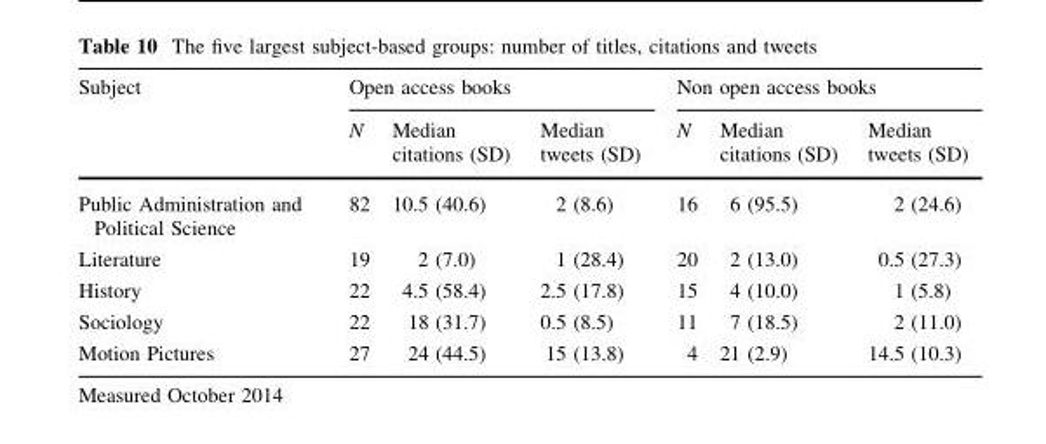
<table><thead><tr><td rowspan="2">Subject</td><td colspan="3">Open access books</td><td colspan="3">Non open access books</td></tr><tr><td>N</td><td>Median citations (SD)</td><td>Median tweets (SD)</td><td>N</td><td>Median citations (SD)</td><td>Median tweets (SD)</td></tr></thead><tbody><tr><td>Public Administration and Political Science</td><td>82</td><td>10.5 (40.6)</td><td>2 (8.6)</td><td>16</td><td>6 (95.5)</td><td>2 (24.6)</td></tr><tr><td>Literature</td><td>19</td><td>2 (7.0)</td><td>1 (28.4)</td><td>20</td><td>2 (13.0)</td><td>0.5 (27.3)</td></tr><tr><td>History</td><td>22</td><td>4.5 (58.4)</td><td>2.5 (17.8)</td><td>15</td><td>4 (10.0)</td><td>1 (5.8)</td></tr><tr><td>Sociology</td><td>22</td><td>18 (31.7)</td><td>0.5 (8.5)</td><td>11</td><td>7 (18.5)</td><td>2 (11.0)</td></tr><tr><td>Motion Pictures</td><td>27</td><td>24 (44.5)</td><td>15 (13.8)</td><td>4</td><td>21 (2.9)</td><td>14.5 (10.3)</td></tr></tbody></table>